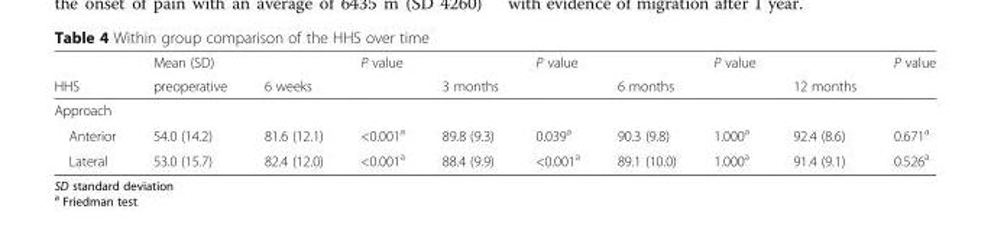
<table><thead><tr><td rowspan="2">HHS</td><td rowspan="2">Mean (SD) preoperative</td><td rowspan="2">6 weeks</td><td rowspan="2">P value</td><td rowspan="2">3 months</td><td rowspan="2">P value</td><td rowspan="2">6 months</td><td rowspan="2">P value</td><td rowspan="2">12 months</td><td rowspan="2">P value</td></tr><tr></tr></thead><tbody><tr><td colspan="10">Approach</td></tr><tr><td>Anterior</td><td>54.0 (14.2)</td><td>81.6 (12.1)</td><td>&lt;0.001<sup>a</sup></td><td>89.8 (9.3)</td><td>0.039<sup>a</sup></td><td>90.3 (9.8)</td><td>1.000<sup>a</sup></td><td>92.4 (8.6)</td><td>0.671<sup>a</sup></td></tr><tr><td>Lateral</td><td>53.0 (15.7)</td><td>82.4 (12.0)</td><td>&lt;0.001<sup>a</sup></td><td>88.4 (9.9)</td><td>&lt;0.001<sup>a</sup></td><td>89.1 (10.0)</td><td>1.000<sup>a</sup></td><td>91.4 (9.1)</td><td>0.526<sup>a</sup></td></tr></tbody></table>